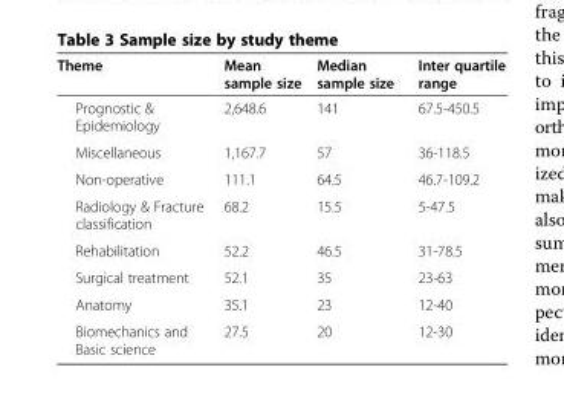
<table><thead><tr><td>Theme</td><td>Mean sample size</td><td>Median sample size</td><td>Inter quartile range</td></tr></thead><tbody><tr><td>Prognostic &amp; Epidemiology</td><td>2,648.6</td><td>141</td><td>67.5-450.5</td></tr><tr><td>Miscellaneous</td><td>1,167.7</td><td>57</td><td>36-118.5</td></tr><tr><td>Non-operative</td><td>111.1</td><td>64.5</td><td>46.7-109.2</td></tr><tr><td>Radiology &amp; Fracture classification</td><td>68.2</td><td>15.5</td><td>5-47.5</td></tr><tr><td>Rehabilitation</td><td>52.2</td><td>46.5</td><td>31-78.5</td></tr><tr><td>Surgical treatment</td><td>52.1</td><td>35</td><td>23-63</td></tr><tr><td>Anatomy</td><td>35.1</td><td>23</td><td>12-40</td></tr><tr><td>Biomechanics and Basic science</td><td>27.5</td><td>20</td><td>12-30</td></tr></tbody></table>